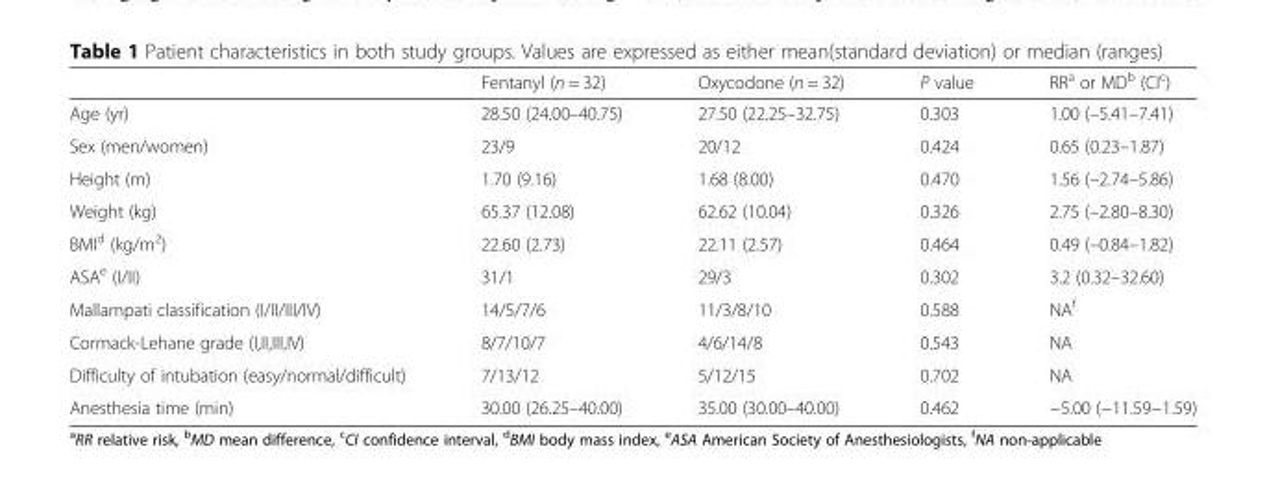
<table><thead><tr><td></td><td>Fentanyl (n = 32)</td><td>Oxycodone (n = 32)</td><td>P value</td><td>RR<sup>a</sup> or MD<sup>b</sup> (CI<sup>c</sup>)</td></tr></thead><tbody><tr><td>Age (yr)</td><td>28.50 (24.00–40.75)</td><td>27.50 (22.25–32.75)</td><td>0.303</td><td>1.00 (–5.41–7.41)</td></tr><tr><td>Sex (men/women)</td><td>23/9</td><td>20/12</td><td>0.424</td><td>0.65 (0.23–1.87)</td></tr><tr><td>Height (m)</td><td>1.70 (9.16)</td><td>1.68 (8.00)</td><td>0.470</td><td>1.56 (–2.74–5.86)</td></tr><tr><td>Weight (kg)</td><td>65.37 (12.08)</td><td>62.62 (10.04)</td><td>0.326</td><td>2.75 (–2.80–8.30)</td></tr><tr><td>BMI<sup>d</sup> (kg/m<sup>2</sup>)</td><td>22.60 (2.73)</td><td>22.11 (2.57)</td><td>0.464</td><td>0.49 (–0.84–1.82)</td></tr><tr><td>ASA<sup>e</sup> (I/II)</td><td>31/1</td><td>29/3</td><td>0.302</td><td>3.2 (0.32–32.60)</td></tr><tr><td>Mallampati classification (I/II/III/IV)</td><td>14/5/7/6</td><td>11/3/8/10</td><td>0.588</td><td>NA<sup>f</sup></td></tr><tr><td>Cormack-Lehane grade (I,II,III,IV)</td><td>8/7/10/7</td><td>4/6/14/8</td><td>0.543</td><td>NA</td></tr><tr><td>Difficulty of intubation (easy/normal/difficult)</td><td>7/13/12</td><td>5/12/15</td><td>0.702</td><td>NA</td></tr><tr><td>Anesthesia time (min)</td><td>30.00 (26.25–40.00)</td><td>35.00 (30.00–40.00)</td><td>0.462</td><td>−5.00 (−11.59−1.59)</td></tr></tbody></table>